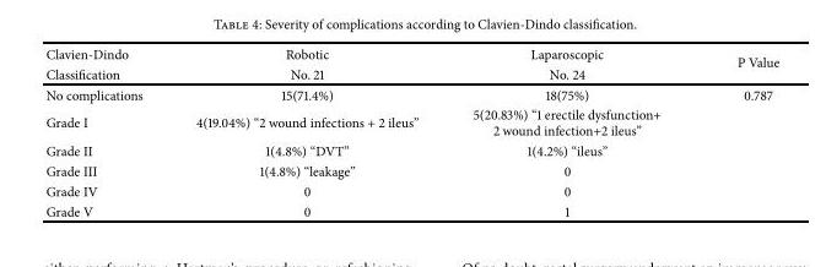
<table><thead><tr><td rowspan="2">Clavien-Dindo Classification</td><td rowspan="2">Robotic No. 21</td><td rowspan="2">Laparoscopic No. 24</td><td rowspan="2">P Value</td></tr><tr></tr></thead><tbody><tr><td>No complications</td><td>15(71.4%)</td><td>18(75%)</td><td>0.787</td></tr><tr><td>Grade I</td><td>4(19.04%) “2 wound infections + 2 ileus”</td><td>5(20.83%) “1 erectile dysfunction+ 2 wound infection+2 ileus”</td><td></td></tr><tr><td>Grade II</td><td>1(4.8%) “DVT”</td><td>1(4.2%) “ileus”</td><td></td></tr><tr><td>Grade III</td><td>1(4.8%) “leakage”</td><td>0</td><td></td></tr><tr><td>Grade IV</td><td>0</td><td>0</td><td></td></tr><tr><td>Grade V</td><td>0</td><td>1</td><td></td></tr></tbody></table>